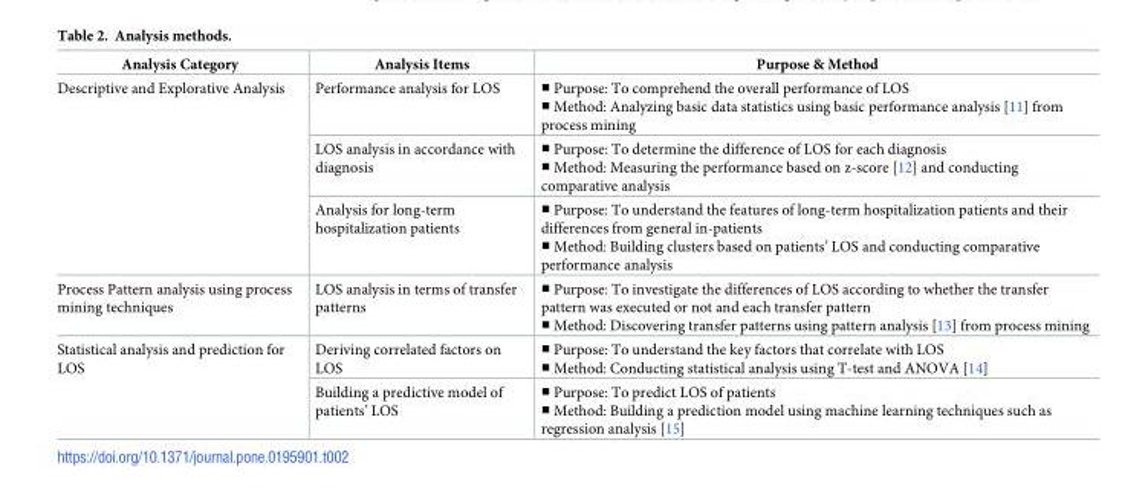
<table><thead><tr><td>Analysis Category</td><td>Analysis Items</td><td>Purpose &amp; Method</td></tr></thead><tbody><tr><td rowspan="3">Descriptive and Explorative Analysis</td><td>Performance analysis for LOS</td><td>■ Purpose: To comprehend the overall performance of LOS ■ Method: Analyzing basic data statistics using basic performance analysis [11] from process mining</td></tr><tr><td>LOS analysis in accordance with diagnosis</td><td>■ Purpose: To determine the difference of LOS for each diagnosis ■ Method: Measuring the performance based on z-score [12] and conducting comparative analysis</td></tr><tr><td>Analysis for long-term hospitalization patients</td><td>■ Purpose: To understand the features of long-term hospitalization patients and their differences from general in-patients ■ Method: Building clusters based on patients’ LOS and conducting comparative performance analysis</td></tr><tr><td>Process Pattern analysis using process mining techniques</td><td>LOS analysis in terms of transfer patterns</td><td>■ Purpose: To investigate the differences of LOS according to whether the transfer pattern was executed or not and each transfer pattern ■ Method: Discovering transfer patterns using pattern analysis [13] from process mining</td></tr><tr><td rowspan="2">Statistical analysis and prediction for LOS</td><td>Deriving correlated factors on LOS</td><td>■ Purpose: To understand the key factors that correlate with LOS ■ Method: Conducting statistical analysis using T-test and ANOVA [14]</td></tr><tr><td>Building a predictive model of patients’ LOS</td><td>■ Purpose: To predict LOS of patients ■ Method: Building a prediction model using machine learning techniques such as regression analysis [15]</td></tr></tbody></table>